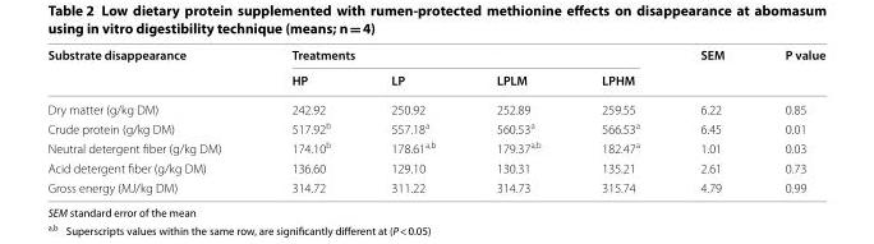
<table><thead><tr><td rowspan="2">Substrate disappearance</td><td colspan="4">Treatments</td><td rowspan="2">SEM</td><td rowspan="2">P value</td></tr><tr><td>HP</td><td>LP</td><td>LPLM</td><td>LPHM</td></tr></thead><tbody><tr><td>Dry matter (g/kg DM)</td><td>242.92</td><td>250.92</td><td>252.89</td><td>259.55</td><td>6.22</td><td>0.85</td></tr><tr><td>Crude protein (g/kg DM)</td><td>517.92<sup>b</sup></td><td>557.18<sup>a</sup></td><td>560.53<sup>a</sup></td><td>566.53<sup>a</sup></td><td>6.45</td><td>0.01</td></tr><tr><td>Neutral detergent fiber (g/kg DM)</td><td>174.10<sup>b</sup></td><td>178.61<sup>a,b</sup></td><td>179.37<sup>a,b</sup></td><td>182.47<sup>a</sup></td><td>1.01</td><td>0.03</td></tr><tr><td>Acid detergent fiber (g/kg DM)</td><td>136.60</td><td>129.10</td><td>130.31</td><td>135.21</td><td>2.61</td><td>0.73</td></tr><tr><td>Gross energy (MJ/kg DM)</td><td>314.72</td><td>311.22</td><td>314.73</td><td>315.74</td><td>4.79</td><td>0.99</td></tr></tbody></table>